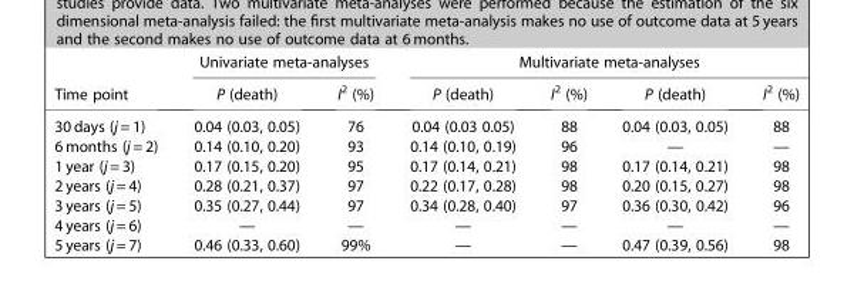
<table><thead><tr><td rowspan="2">Time point</td><td colspan="2">Univariate meta-analyses</td><td colspan="4">Multivariate meta-analyses</td></tr><tr><td>P (death)</td><td>I<sup>2</sup> (%)</td><td>P (death)</td><td>I<sup>2</sup> (%)</td><td>P (death)</td><td>I<sup>2</sup> (%)</td></tr></thead><tbody><tr><td>30 days (j = 1)</td><td>0.04 (0.03, 0.05)</td><td>76</td><td>0.04 (0.03 0.05)</td><td>88</td><td>0.04 (0.03, 0.05)</td><td>88</td></tr><tr><td>6 months (j = 2)</td><td>0.14 (0.10, 0.20)</td><td>93</td><td>0.14 (0.10, 0.19)</td><td>96</td><td>—</td><td>—</td></tr><tr><td>1 year (j = 3)</td><td>0.17 (0.15, 0.20)</td><td>95</td><td>0.17 (0.14, 0.21)</td><td>98</td><td>0.17 (0.14, 0.21)</td><td>98</td></tr><tr><td>2 years (j = 4)</td><td>0.28 (0.21, 0.37)</td><td>97</td><td>0.22 (0.17, 0.28)</td><td>98</td><td>0.20 (0.15, 0.27)</td><td>98</td></tr><tr><td>3 years (j = 5)</td><td>0.35 (0.27, 0.44)</td><td>97</td><td>0.34 (0.28, 0.40)</td><td>97</td><td>0.36 (0.30, 0.42)</td><td>96</td></tr><tr><td>4 years (j = 6)</td><td>—</td><td>—</td><td>—</td><td>—</td><td>—</td><td>—</td></tr><tr><td>5 years (j = 7)</td><td>0.46 (0.33, 0.60)</td><td>99%</td><td>—</td><td>—</td><td>0.47 (0.39, 0.56)</td><td>98</td></tr></tbody></table>